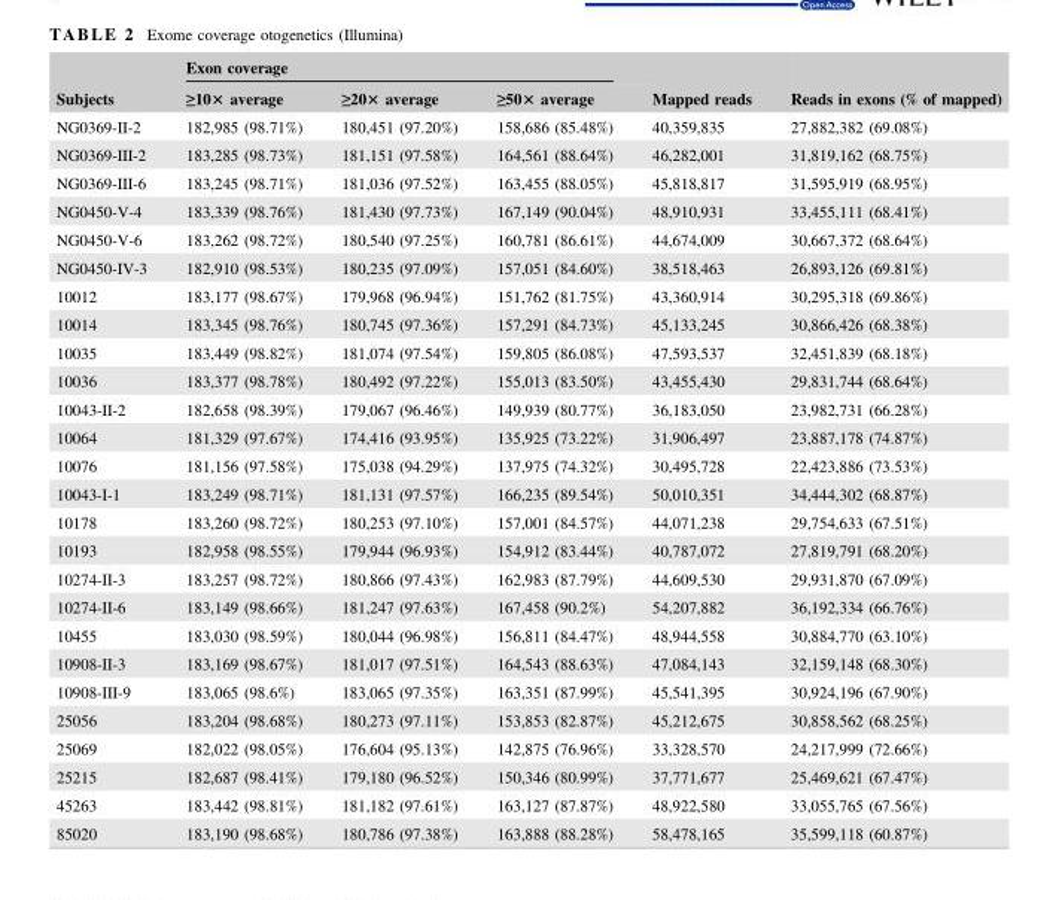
<table><thead><tr><td rowspan="2">Subjects</td><td colspan="3">Exon coverage</td><td rowspan="2">Mapped reads</td><td rowspan="2">Reads in exons (% of mapped)</td></tr><tr><td>≥10× average</td><td>≥20× average</td><td>≥50× average</td></tr></thead><tbody><tr><td>NG0369-II-2</td><td>182,985 (98.71%)</td><td>180,451 (97.20%)</td><td>158,686 (85.48%)</td><td>40,359,835</td><td>27,882,382 (69.08%)</td></tr><tr><td>NG0369-III-2</td><td>183,285 (98.73%)</td><td>181,151 (97.58%)</td><td>164,561 (88.64%)</td><td>46,282,001</td><td>31,819,162 (68.75%)</td></tr><tr><td>NG0369-III-6</td><td>183,245 (98.71%)</td><td>181,036 (97.52%)</td><td>163,455 (88.05%)</td><td>45,818,817</td><td>31,595,919 (68.95%)</td></tr><tr><td>NG0450-V-4</td><td>183,339 (98.76%)</td><td>181,430 (97.73%)</td><td>167,149 (90.04%)</td><td>48,910,931</td><td>33,455,111 (68.41%)</td></tr><tr><td>NG0450-V-6</td><td>183,262 (98.72%)</td><td>180,540 (97.25%)</td><td>160,781 (86.61%)</td><td>44,674,009</td><td>30,667,372 (68.64%)</td></tr><tr><td>NG0450-IV-3</td><td>182,910 (98.53%)</td><td>180,235 (97.09%)</td><td>157,051 (84.60%)</td><td>38,518,463</td><td>26,893,126 (69.81%)</td></tr><tr><td>10012</td><td>183,177 (98.67%)</td><td>179,968 (96.94%)</td><td>151,762 (81.75%)</td><td>43,360,914</td><td>30,295,318 (69.86%)</td></tr><tr><td>10014</td><td>183,345 (98.76%)</td><td>180,745 (97.36%)</td><td>157,291 (84.73%)</td><td>45,133,245</td><td>30,866,426 (68.38%)</td></tr><tr><td>10035</td><td>183,449 (98.82%)</td><td>181,074 (97.54%)</td><td>159,805 (86.08%)</td><td>47,593,537</td><td>32,451,839 (68.18%)</td></tr><tr><td>10036</td><td>183,377 (98.78%)</td><td>180,492 (97.22%)</td><td>155,013 (83.50%)</td><td>43,455,430</td><td>29,831,744 (68.64%)</td></tr><tr><td>10043-II-2</td><td>182,658 (98.39%)</td><td>179,067 (96.46%)</td><td>149,939 (80.77%)</td><td>36,183,050</td><td>23,982,731 (66.28%)</td></tr><tr><td>10064</td><td>181,329 (97.67%)</td><td>174,416 (93.95%)</td><td>135,925 (73.22%)</td><td>31,906,497</td><td>23,887,178 (74.87%)</td></tr><tr><td>10076</td><td>181,156 (97.58%)</td><td>175,038 (94.29%)</td><td>137,975 (74.32%)</td><td>30,495,728</td><td>22,423,886 (73.53%)</td></tr><tr><td>10043-I-1</td><td>183,249 (98.71%)</td><td>181,131 (97.57%)</td><td>166,235 (89.54%)</td><td>50,010,351</td><td>34,444,302 (68.87%)</td></tr><tr><td>10178</td><td>183,260 (98.72%)</td><td>180,253 (97.10%)</td><td>157,001 (84.57%)</td><td>44,071,238</td><td>29,754,633 (67.51%)</td></tr><tr><td>10193</td><td>182,958 (98.55%)</td><td>179,944 (96.93%)</td><td>154,912 (83.44%)</td><td>40,787,072</td><td>27,819,791 (68.20%)</td></tr><tr><td>10274-II-3</td><td>183,257 (98.72%)</td><td>180,866 (97.43%)</td><td>162,983 (87.79%)</td><td>44,609,530</td><td>29,931,870 (67.09%)</td></tr><tr><td>10274-II-6</td><td>183,149 (98.66%)</td><td>181,247 (97.63%)</td><td>167,458 (90.2%)</td><td>54,207,882</td><td>36,192,334 (66.76%)</td></tr><tr><td>10455</td><td>183,030 (98.59%)</td><td>180,044 (96.98%)</td><td>156,811 (84.47%)</td><td>48,944,558</td><td>30,884,770 (63.10%)</td></tr><tr><td>10908-II-3</td><td>183,169 (98.67%)</td><td>181,017 (97.51%)</td><td>164,543 (88.63%)</td><td>47,084,143</td><td>32,159,148 (68.30%)</td></tr><tr><td>10908-III-9</td><td>183,065 (98.6%)</td><td>183,065 (97.35%)</td><td>163,351 (87.99%)</td><td>45,541,395</td><td>30,924,196 (67.90%)</td></tr><tr><td>25056</td><td>183,204 (98.68%)</td><td>180,273 (97.11%)</td><td>153,853 (82.87%)</td><td>45,212,675</td><td>30,858,562 (68.25%)</td></tr><tr><td>25069</td><td>182,022 (98.05%)</td><td>176,604 (95.13%)</td><td>142,875 (76.96%)</td><td>33,328,570</td><td>24,217,999 (72.66%)</td></tr><tr><td>25215</td><td>182,687 (98.41%)</td><td>179,180 (96.52%)</td><td>150,346 (80.99%)</td><td>37,771,677</td><td>25,469,621 (67.47%)</td></tr><tr><td>45263</td><td>183,442 (98.81%)</td><td>181,182 (97.61%)</td><td>163,127 (87.87%)</td><td>48,922,580</td><td>33,055,765 (67.56%)</td></tr><tr><td>85020</td><td>183,190 (98.68%)</td><td>180,786 (97.38%)</td><td>163,888 (88.28%)</td><td>58,478,165</td><td>35,599,118 (60.87%)</td></tr></tbody></table>